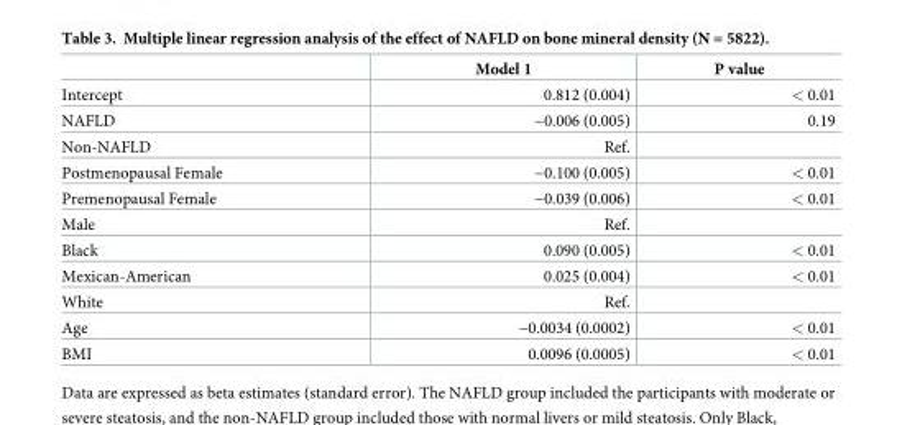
<table><thead><tr><td></td><td>Model 1</td><td>P value</td></tr></thead><tbody><tr><td>Intercept</td><td>0.812 (0.004)</td><td>&lt; 0.01</td></tr><tr><td>NAFLD</td><td>−0.006 (0.005)</td><td>0.19</td></tr><tr><td>Non-NAFLD</td><td>Ref.</td><td></td></tr><tr><td>Postmenopausal Female</td><td>−0.100 (0.005)</td><td>&lt; 0.01</td></tr><tr><td>Premenopausal Female</td><td>−0.039 (0.006)</td><td>&lt; 0.01</td></tr><tr><td>Male</td><td>Ref.</td><td></td></tr><tr><td>Black</td><td>0.090 (0.005)</td><td>&lt; 0.01</td></tr><tr><td>Mexican-American</td><td>0.025 (0.004)</td><td>&lt; 0.01</td></tr><tr><td>White</td><td>Ref.</td><td></td></tr><tr><td>Age</td><td>−0.0034 (0.0002)</td><td>&lt; 0.01</td></tr><tr><td>BMI</td><td>0.0096 (0.0005)</td><td>&lt; 0.01</td></tr></tbody></table>